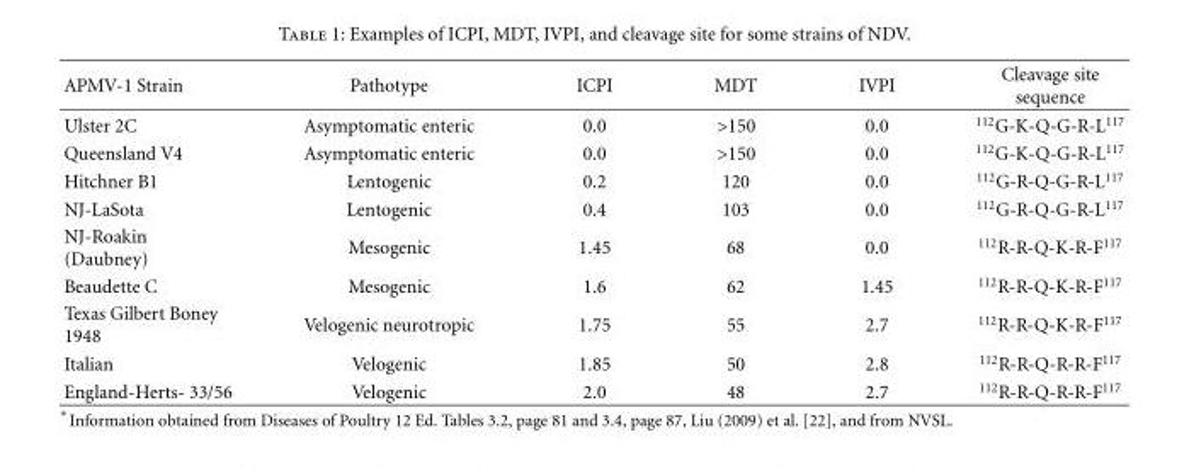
<table><thead><tr><td>APMV-1 Strain</td><td>Pathotype</td><td>ICPI</td><td>MDT</td><td>IVPI</td><td>Cleavage site sequence</td></tr></thead><tbody><tr><td>Ulster 2C</td><td>Asymptomatic enteric</td><td>0.0</td><td>&gt;150</td><td>0.0</td><td><sup>112</sup>G-K-Q-G-R-L<sup>117</sup></td></tr><tr><td>Queensland V4</td><td>Asymptomatic enteric</td><td>0.0</td><td>&gt;150</td><td>0.0</td><td><sup>112</sup>G-K-Q-G-R-L<sup>117</sup></td></tr><tr><td>Hitchner B1</td><td>Lentogenic</td><td>0.2</td><td>120</td><td>0.0</td><td><sup>112</sup>G-R-Q-G-R-L<sup>117</sup></td></tr><tr><td>NJ-LaSota</td><td>Lentogenic</td><td>0.4</td><td>103</td><td>0.0</td><td><sup>112</sup>G-R-Q-G-R-L<sup>117</sup></td></tr><tr><td>NJ-Roakin (Daubney)</td><td>Mesogenic</td><td>1.45</td><td>68</td><td>0.0</td><td><sup>112</sup>R-R-Q-K-R-F<sup>117</sup></td></tr><tr><td>Beaudette C</td><td>Mesogenic</td><td>1.6</td><td>62</td><td>1.45</td><td><sup>112</sup>R-R-Q-K-R-F<sup>117</sup></td></tr><tr><td>Texas Gilbert Boney 1948</td><td>Velogenic neurotropic</td><td>1.75</td><td>55</td><td>2.7</td><td><sup>112</sup>R-R-Q-K-R-F<sup>117</sup></td></tr><tr><td>Italian</td><td>Velogenic</td><td>1.85</td><td>50</td><td>2.8</td><td><sup>112</sup>R-R-Q-R-R-F<sup>117</sup></td></tr><tr><td>England-Herts- 33/56</td><td>Velogenic</td><td>2.0</td><td>48</td><td>2.7</td><td><sup>112</sup>R-R-Q-R-R-F<sup>117</sup></td></tr></tbody></table>